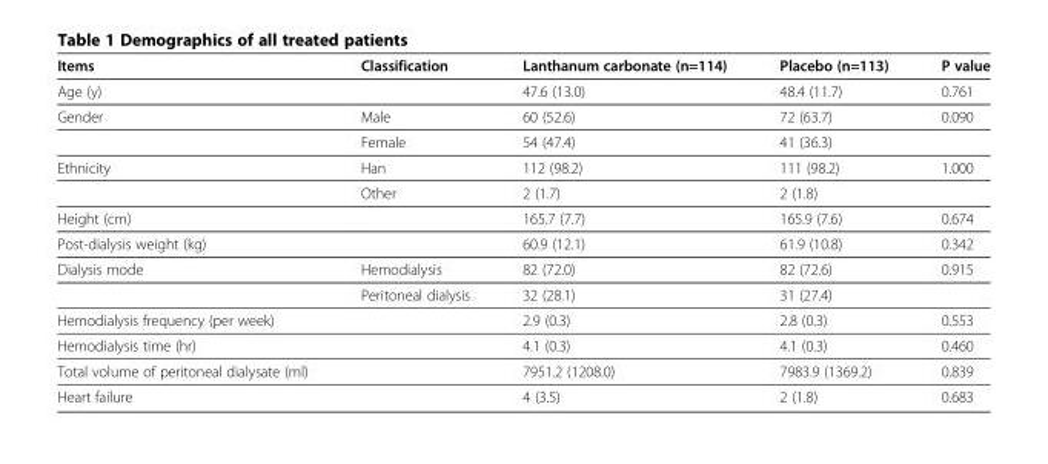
<table><thead><tr><td>Items</td><td>Classification</td><td>Lanthanum carbonate (n=114)</td><td>Placebo (n=113)</td><td>P value</td></tr></thead><tbody><tr><td>Age (y)</td><td></td><td>47.6 (13.0)</td><td>48.4 (11.7)</td><td>0.761</td></tr><tr><td rowspan="2">Gender</td><td>Male</td><td>60 (52.6)</td><td>72 (63.7)</td><td>0.090</td></tr><tr><td>Female</td><td>54 (47.4)</td><td>41 (36.3)</td><td></td></tr><tr><td rowspan="2">Ethnicity</td><td>Han</td><td>112 (98.2)</td><td>111 (98.2)</td><td>1.000</td></tr><tr><td>Other</td><td>2 (1.7)</td><td>2 (1.8)</td><td></td></tr><tr><td>Height (cm)</td><td></td><td>165.7 (7.7)</td><td>165.9 (7.6)</td><td>0.674</td></tr><tr><td>Post-dialysis weight (kg)</td><td></td><td>60.9 (12.1)</td><td>61.9 (10.8)</td><td>0.342</td></tr><tr><td rowspan="2">Dialysis mode</td><td>Hemodialysis</td><td>82 (72.0)</td><td>82 (72.6)</td><td>0.915</td></tr><tr><td>Peritoneal dialysis</td><td>32 (28.1)</td><td>31 (27.4)</td><td></td></tr><tr><td>Hemodialysis frequency (per week)</td><td></td><td>2.9 (0.3)</td><td>2.8 (0.3)</td><td>0.553</td></tr><tr><td>Hemodialysis time (hr)</td><td></td><td>4.1 (0.3)</td><td>4.1 (0.3)</td><td>0.460</td></tr><tr><td>Total volume of peritoneal dialysate (ml)</td><td></td><td>7951.2 (1208.0)</td><td>7983.9 (1369.2)</td><td>0.839</td></tr><tr><td>Heart failure</td><td></td><td>4 (3.5)</td><td>2 (1.8)</td><td>0.683</td></tr></tbody></table>